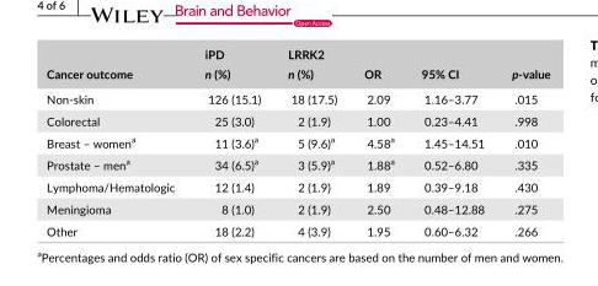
<table><thead><tr><td rowspan="2">Cancer outcome</td><td rowspan="2">iPD n (%)</td><td rowspan="2">LRRK2 n (%)</td><td rowspan="2">OR</td><td rowspan="2">95% CI</td><td rowspan="2">p- value</td></tr><tr></tr></thead><tbody><tr><td>Non- skin</td><td>126 (15.1)</td><td>18 (17.5)</td><td>2.09</td><td>1.16–3.77</td><td>.015</td></tr><tr><td>Colorectal</td><td>25 (3.0)</td><td>2 (1.9)</td><td>1.00</td><td>0.23–4.41</td><td>.998</td></tr><tr><td>Breast – women<sup>a</sup></td><td>11 (3.6)<sup>a</sup></td><td>5 (9.6)<sup>a</sup></td><td>4.58<sup>a</sup></td><td>1.45–14.51</td><td>.010</td></tr><tr><td>Prostate – men<sup>a</sup></td><td>34 (6.5)<sup>a</sup></td><td>3 (5.9)<sup>a</sup></td><td>1.88<sup>a</sup></td><td>0.52–6.80</td><td>.335</td></tr><tr><td>Lymphoma/Hematologic</td><td>12 (1.4)</td><td>2 (1.9)</td><td>1.89</td><td>0.39–9.18</td><td>.430</td></tr><tr><td>Meningioma</td><td>8 (1.0)</td><td>2 (1.9)</td><td>2.50</td><td>0.48–12.88</td><td>.275</td></tr><tr><td>Other</td><td>18 (2.2)</td><td>4 (3.9)</td><td>1.95</td><td>0.60–6.32</td><td>.266</td></tr></tbody></table>